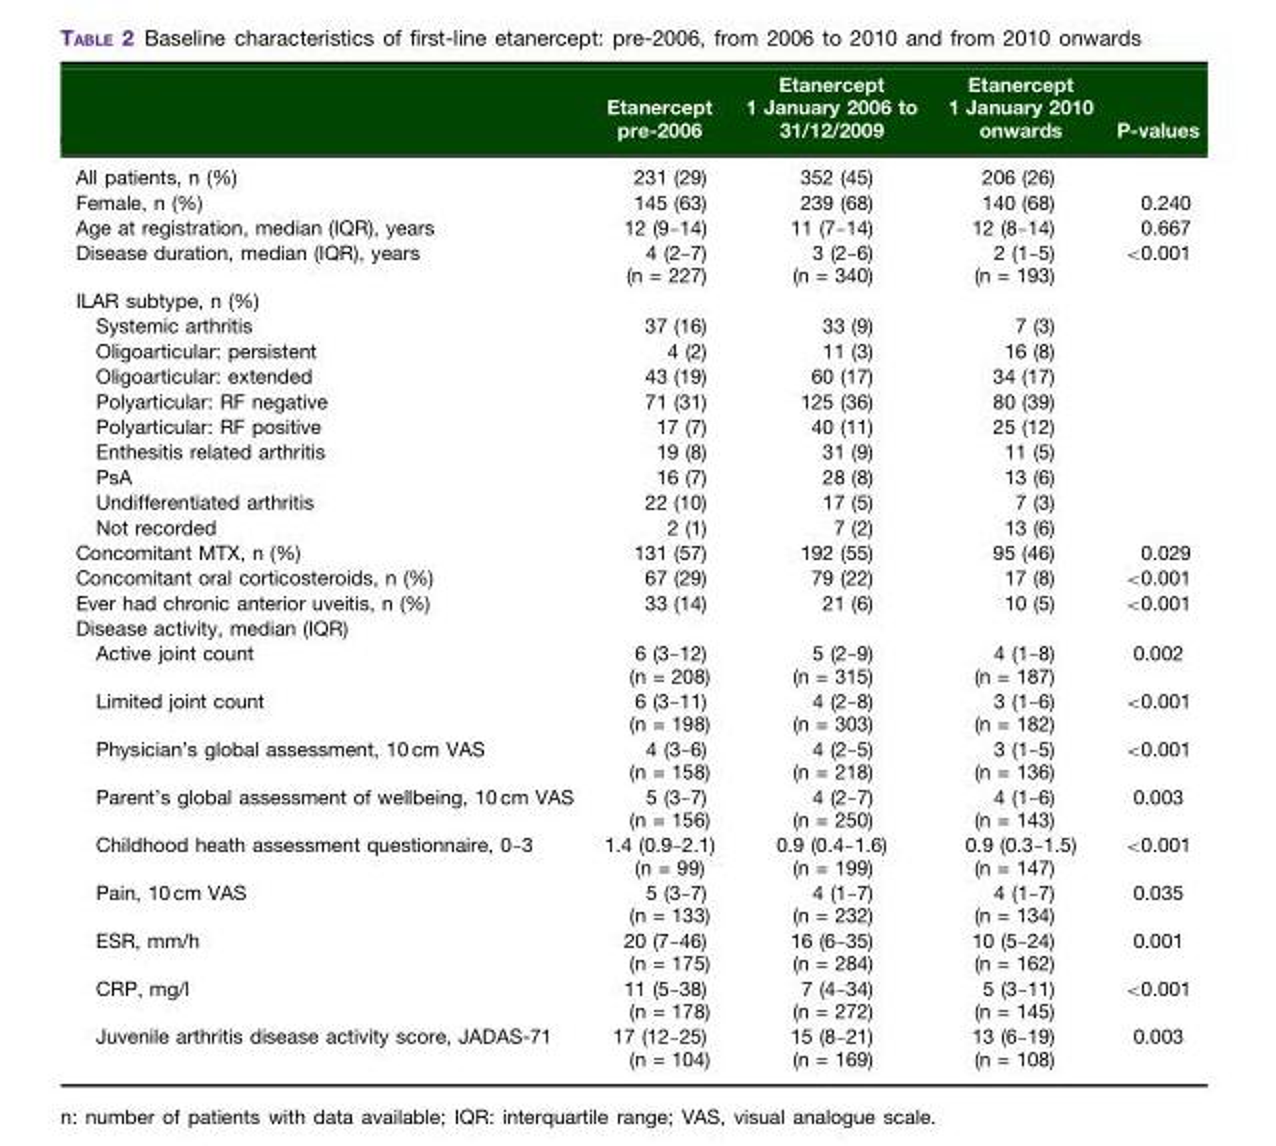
<table><thead><tr><td></td><td>Etanercept pre-2006</td><td>Etanercept 1 January 2006 to 31/12/2009</td><td>Etanercept 1 January 2010 onwards</td><td>P-values</td></tr></thead><tbody><tr><td>All patients, n (%)</td><td>231 (29)</td><td>352 (45)</td><td>206 (26)</td><td></td></tr><tr><td>Female, n (%)</td><td>145 (63)</td><td>239 (68)</td><td>140 (68)</td><td>0.240</td></tr><tr><td>Age at registration, median (IQR), years</td><td>12 (9–14)</td><td>11 (7–14)</td><td>12 (8–14)</td><td>0.667</td></tr><tr><td rowspan="2">Disease duration, median (IQR), years</td><td>4 (2–7)</td><td>3 (2–6)</td><td>2 (1–5)</td><td rowspan="2">&lt;0.001</td></tr><tr><td>(n = 227)</td><td>(n = 340)</td><td>(n = 193)</td></tr><tr><td colspan="5">ILAR subtype, n (%)</td></tr><tr><td>Systemic arthritis</td><td>37 (16)</td><td>33 (9)</td><td>7 (3)</td><td></td></tr><tr><td>Oligoarticular: persistent</td><td>4 (2)</td><td>11 (3)</td><td>16 (8)</td><td></td></tr><tr><td>Oligoarticular: extended</td><td>43 (19)</td><td>60 (17)</td><td>34 (17)</td><td></td></tr><tr><td>Polyarticular: RF negative</td><td>71 (31)</td><td>125 (36)</td><td>80 (39)</td><td></td></tr><tr><td>Polyarticular: RF positive</td><td>17 (7)</td><td>40 (11)</td><td>25 (12)</td><td></td></tr><tr><td>Enthesitis related arthritis</td><td>19 (8)</td><td>31 (9)</td><td>11 (5)</td><td></td></tr><tr><td>PsA</td><td>16 (7)</td><td>28 (8)</td><td>13 (6)</td><td></td></tr><tr><td>Undifferentiated arthritis</td><td>22 (10)</td><td>17 (5)</td><td>7 (3)</td><td></td></tr><tr><td>Not recorded</td><td>2 (1)</td><td>7 (2)</td><td>13 (6)</td><td></td></tr><tr><td>Concomitant MTX, n (%)</td><td>131 (57)</td><td>192 (55)</td><td>95 (46)</td><td>0.029</td></tr><tr><td>Concomitant oral corticosteroids, n (%)</td><td>67 (29)</td><td>79 (22)</td><td>17 (8)</td><td>&lt;0.001</td></tr><tr><td>Ever had chronic anterior uveitis, n (%)</td><td>33 (14)</td><td>21 (6)</td><td>10 (5)</td><td>&lt;0.001</td></tr><tr><td colspan="5">Disease activity, median (IQR)</td></tr><tr><td rowspan="2">Active joint count</td><td>6 (3–12)</td><td>5 (2–9)</td><td>4 (1–8)</td><td rowspan="2">0.002</td></tr><tr><td>(n = 208)</td><td>(n = 315)</td><td>(n = 187)</td></tr><tr><td rowspan="2">Limited joint count</td><td>6 (3–11)</td><td>4 (2–8)</td><td>3 (1–6)</td><td rowspan="2">&lt;0.001</td></tr><tr><td>(n = 198)</td><td>(n = 303)</td><td>(n = 182)</td></tr><tr><td rowspan="2">Physician’s global assessment, 10 cm VAS</td><td>4 (3–6)</td><td>4 (2–5)</td><td>3 (1–5)</td><td rowspan="2">&lt;0.001</td></tr><tr><td>(n = 158)</td><td>(n = 218)</td><td>(n = 136)</td></tr><tr><td rowspan="2">Parent’s global assessment of wellbeing, 10 cm VAS</td><td>5 (3–7)</td><td>4 (2–7)</td><td>4 (1–6)</td><td rowspan="2">0.003</td></tr><tr><td>(n = 156)</td><td>(n = 250)</td><td>(n = 143)</td></tr><tr><td rowspan="2">Childhood heath assessment questionnaire, 0–3</td><td>1.4 (0.9–2.1)</td><td>0.9 (0.4–1.6)</td><td>0.9 (0.3–1.5)</td><td rowspan="2">&lt;0.001</td></tr><tr><td>(n = 99)</td><td>(n = 199)</td><td>(n = 147)</td></tr><tr><td rowspan="2">Pain, 10 cm VAS</td><td>5 (3–7)</td><td>4 (1–7)</td><td>4 (1–7)</td><td rowspan="2">0.035</td></tr><tr><td>(n = 133)</td><td>(n = 232)</td><td>(n = 134)</td></tr><tr><td rowspan="2">ESR, mm/h</td><td>20 (7–46)</td><td>16 (6–35)</td><td>10 (5–24)</td><td rowspan="2">0.001</td></tr><tr><td>(n = 175)</td><td>(n = 284)</td><td>(n = 162)</td></tr><tr><td rowspan="2">CRP, mg/l</td><td>11 (5–38)</td><td>7 (4–34)</td><td>5 (3–11)</td><td rowspan="2">&lt;0.001</td></tr><tr><td>(n = 178)</td><td>(n = 272)</td><td>(n = 145)</td></tr><tr><td rowspan="2">Juvenile arthritis disease activity score, JADAS-71</td><td>17 (12–25)</td><td>15 (8–21)</td><td>13 (6–19)</td><td rowspan="2">0.003</td></tr><tr><td>(n = 104)</td><td>(n = 169)</td><td>(n = 108)</td></tr></tbody></table>